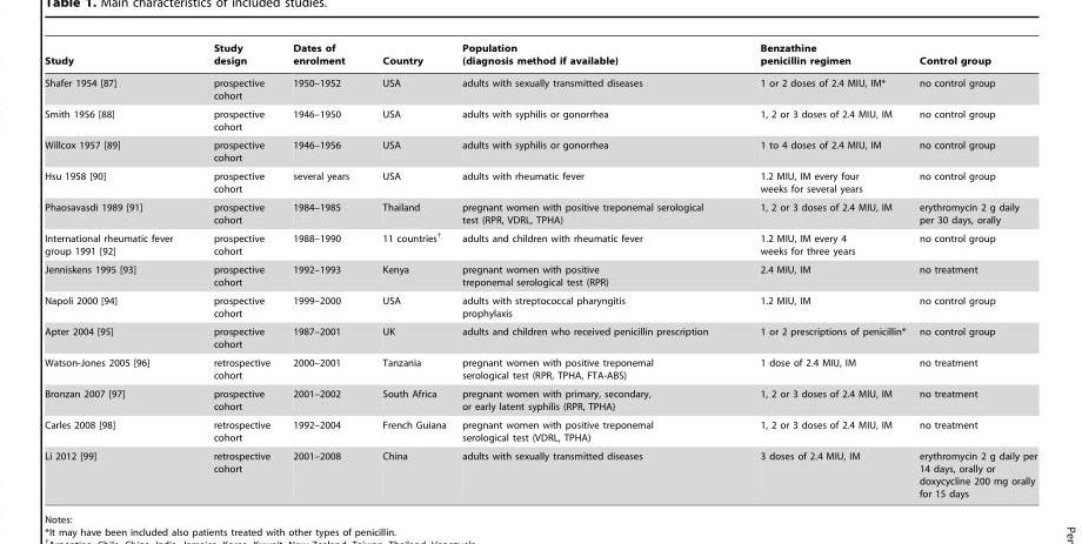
<table><thead><tr><td>Study</td><td>Study design</td><td>Dates of enrolment</td><td>Country</td><td>Population (diagnosis method if available)</td><td>Benzathine penicillin regimen</td><td>Control group</td></tr></thead><tbody><tr><td>Shafer 1954 [87]</td><td>prospective cohort</td><td>1950–1952</td><td>USA</td><td>adults with sexually transmitted diseases</td><td>1 or 2 doses of 2.4 MIU, IM*</td><td>no control group</td></tr><tr><td>Smith 1956 [88]</td><td>prospective cohort</td><td>1946–1950</td><td>USA</td><td>adults with syphilis or gonorrhea</td><td>1, 2 or 3 doses of 2.4 MIU, IM</td><td>no control group</td></tr><tr><td>Willcox 1957 [89]</td><td>prospective cohort</td><td>1946–1956</td><td>USA</td><td>adults with syphilis or gonorrhea</td><td>1 to 4 doses of 2.4 MIU, IM</td><td>no control group</td></tr><tr><td>Hsu 1958 [90]</td><td>prospective cohort</td><td>several years</td><td>USA</td><td>adults with rheumatic fever</td><td>1.2 MIU, IM every four weeks for several years</td><td>no control group</td></tr><tr><td>Phaosavasdi 1989 [91]</td><td>prospective cohort</td><td>1984–1985</td><td>Thailand</td><td>pregnant women with positive treponemal serological test (RPR, VDRL, TPHA)</td><td>1, 2 or 3 doses of 2.4 MIU, IM</td><td>erythromycin 2 g daily per 30 days, orally</td></tr><tr><td>International rheumatic fever group 1991 [92]</td><td>prospective cohort</td><td>1988–1990</td><td>11 countries†</td><td>adults and children with rheumatic fever</td><td>1.2 MIU, IM every 4 weeks for three years</td><td>no control group</td></tr><tr><td>Jenniskens 1995 [93]</td><td>prospective cohort</td><td>1992–1993</td><td>Kenya</td><td>pregnant women with positive treponemal serological test (RPR)</td><td>2.4 MIU, IM</td><td>no treatment</td></tr><tr><td>Napoli 2000 [94]</td><td>prospective cohort</td><td>1999–2000</td><td>USA</td><td>adults with streptococcal pharyngitis prophylaxis</td><td>1.2 MIU, IM</td><td>no control group</td></tr><tr><td>Apter 2004 [95]</td><td>prospective cohort</td><td>1987–2001</td><td>UK</td><td>adults and children who received penicillin prescription</td><td>1 or 2 prescriptions of penicillin*</td><td>no control group</td></tr><tr><td>Watson-Jones 2005 [96]</td><td>retrospective cohort</td><td>2000–2001</td><td>Tanzania</td><td>pregnant women with positive treponemal serological test (RPR, TPHA, FTA-ABS)</td><td>1 dose of 2.4 MIU, IM</td><td>no treatment</td></tr><tr><td>Bronzan 2007 [97]</td><td>prospective cohort</td><td>2001–2002</td><td>South Africa</td><td>pregnant women with primary, secondary, or early latent syphilis (RPR, TPHA)</td><td>1, 2 or 3 doses of 2.4 MIU, IM</td><td>no treatment</td></tr><tr><td>Carles 2008 [98]</td><td>retrospective cohort</td><td>1992–2004</td><td>French Guiana</td><td>pregnant women with positive treponemal serological test (VDRL, TPHA)</td><td>1, 2 or 3 doses of 2.4 MIU, IM</td><td>no treatment</td></tr><tr><td>Li 2012 [99]</td><td>retrospective cohort</td><td>2001–2008</td><td>China</td><td>adults with sexually transmitted diseases</td><td>3 doses of 2.4 MIU, IM</td><td>erythromycin 2 g daily per 14 days, orally or doxycycline 200 mg orally for 15 days</td></tr></tbody></table>